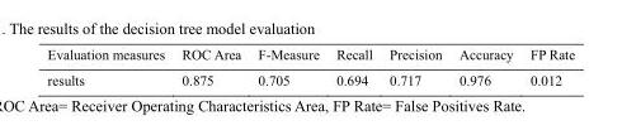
<table><thead><tr><td>Evaluation measures</td><td>ROC Area</td><td>F-Measure</td><td>Recall</td><td>Precision</td><td>Accuracy</td><td>FP Rate</td></tr></thead><tbody><tr><td>results</td><td>0.875</td><td>0.705</td><td>0.694</td><td>0.717</td><td>0.976</td><td>0.012</td></tr></tbody></table>